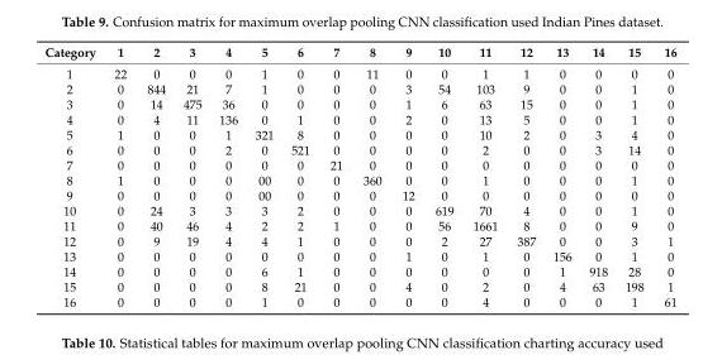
<table><thead><tr><td>Category</td><td>1</td><td>2</td><td>3</td><td>4</td><td>5</td><td>6</td><td>7</td><td>8</td><td>9</td><td>10</td><td>11</td><td>12</td><td>13</td><td>14</td><td>15</td><td>16</td></tr></thead><tbody><tr><td>1</td><td>22</td><td>0</td><td>0</td><td>0</td><td>1</td><td>0</td><td>0</td><td>11</td><td>0</td><td>0</td><td>1</td><td>1</td><td>0</td><td>0</td><td>0</td><td>0</td></tr><tr><td>2</td><td>0</td><td>844</td><td>21</td><td>7</td><td>1</td><td>0</td><td>0</td><td>0</td><td>3</td><td>54</td><td>103</td><td>9</td><td>0</td><td>0</td><td>1</td><td>0</td></tr><tr><td>3</td><td>0</td><td>14</td><td>475</td><td>36</td><td>0</td><td>0</td><td>0</td><td>0</td><td>1</td><td>6</td><td>63</td><td>15</td><td>0</td><td>0</td><td>1</td><td>0</td></tr><tr><td>4</td><td>0</td><td>4</td><td>11</td><td>136</td><td>0</td><td>1</td><td>0</td><td>0</td><td>2</td><td>0</td><td>13</td><td>5</td><td>0</td><td>0</td><td>1</td><td>0</td></tr><tr><td>5</td><td>1</td><td>0</td><td>0</td><td>1</td><td>321</td><td>8</td><td>0</td><td>0</td><td>0</td><td>0</td><td>10</td><td>2</td><td>0</td><td>3</td><td>4</td><td>0</td></tr><tr><td>6</td><td>0</td><td>0</td><td>0</td><td>2</td><td>0</td><td>521</td><td>0</td><td>0</td><td>0</td><td>0</td><td>2</td><td>0</td><td>0</td><td>3</td><td>14</td><td>0</td></tr><tr><td>7</td><td>0</td><td>0</td><td>0</td><td>0</td><td>0</td><td>0</td><td>21</td><td>0</td><td>0</td><td>0</td><td>0</td><td>0</td><td>0</td><td>0</td><td>0</td><td>0</td></tr><tr><td>8</td><td>1</td><td>0</td><td>0</td><td>0</td><td>00</td><td>0</td><td>0</td><td>360</td><td>0</td><td>0</td><td>1</td><td>0</td><td>0</td><td>0</td><td>1</td><td>0</td></tr><tr><td>9</td><td>0</td><td>0</td><td>0</td><td>0</td><td>00</td><td>0</td><td>0</td><td>0</td><td>12</td><td>0</td><td>0</td><td>0</td><td>0</td><td>0</td><td>0</td><td>0</td></tr><tr><td>10</td><td>0</td><td>24</td><td>3</td><td>3</td><td>3</td><td>2</td><td>0</td><td>0</td><td>0</td><td>619</td><td>70</td><td>4</td><td>0</td><td>0</td><td>1</td><td>0</td></tr><tr><td>11</td><td>0</td><td>40</td><td>46</td><td>4</td><td>2</td><td>2</td><td>1</td><td>0</td><td>0</td><td>56</td><td>1661</td><td>8</td><td>0</td><td>0</td><td>9</td><td>0</td></tr><tr><td>12</td><td>0</td><td>9</td><td>19</td><td>4</td><td>4</td><td>1</td><td>0</td><td>0</td><td>0</td><td>2</td><td>27</td><td>387</td><td>0</td><td>0</td><td>3</td><td>1</td></tr><tr><td>13</td><td>0</td><td>0</td><td>0</td><td>0</td><td>0</td><td>0</td><td>0</td><td>0</td><td>1</td><td>0</td><td>1</td><td>0</td><td>156</td><td>0</td><td>1</td><td>0</td></tr><tr><td>14</td><td>0</td><td>0</td><td>0</td><td>0</td><td>6</td><td>1</td><td>0</td><td>0</td><td>0</td><td>0</td><td>0</td><td>0</td><td>1</td><td>918</td><td>28</td><td>0</td></tr><tr><td>15</td><td>0</td><td>0</td><td>0</td><td>0</td><td>8</td><td>21</td><td>0</td><td>0</td><td>4</td><td>0</td><td>2</td><td>0</td><td>4</td><td>63</td><td>198</td><td>1</td></tr><tr><td>16</td><td>0</td><td>0</td><td>0</td><td>0</td><td>1</td><td>0</td><td>0</td><td>0</td><td>0</td><td>0</td><td>4</td><td>0</td><td>0</td><td>0</td><td>1</td><td>61</td></tr></tbody></table>